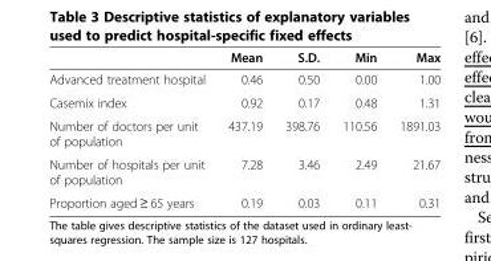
<table><thead><tr><td></td><td>Mean</td><td>S.D.</td><td>Min</td><td>Max</td></tr></thead><tbody><tr><td>Advanced treatment hospital</td><td>0.46</td><td>0.50</td><td>0.00</td><td>1.00</td></tr><tr><td>Casemix index</td><td>0.92</td><td>0.17</td><td>0.48</td><td>1.31</td></tr><tr><td>Number of doctors per unit of population</td><td>437.19</td><td>398.76</td><td>110.56</td><td>1891.03</td></tr><tr><td>Number of hospitals per unit of population</td><td>7.28</td><td>3.46</td><td>2.49</td><td>21.67</td></tr><tr><td>Proportion aged ≥ 65 years</td><td>0.19</td><td>0.03</td><td>0.11</td><td>0.31</td></tr></tbody></table>